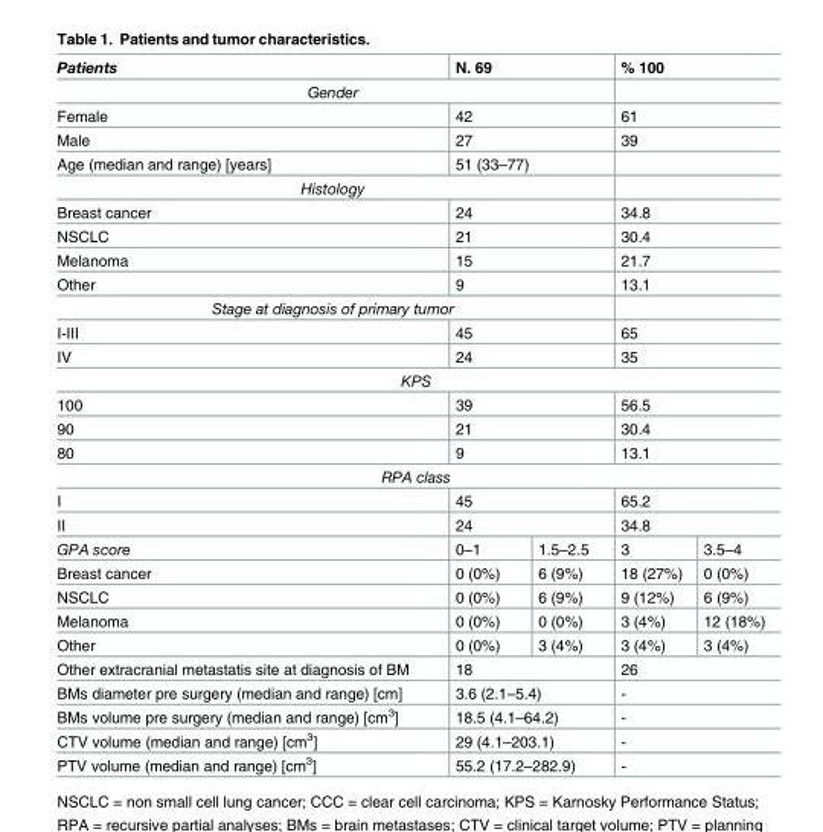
<table><thead><tr><td>Patients</td><td colspan="2">N. 69</td><td colspan="2">% 100</td></tr></thead><tbody><tr><td colspan="5">Gender</td></tr><tr><td>Female</td><td colspan="2">42</td><td colspan="2">61</td></tr><tr><td>Male</td><td colspan="2">27</td><td colspan="2">39</td></tr><tr><td>Age (median and range) [years]</td><td colspan="2">51 (33–77)</td><td colspan="2"></td></tr><tr><td colspan="5">Histology</td></tr><tr><td>Breast cancer</td><td colspan="2">24</td><td colspan="2">34.8</td></tr><tr><td>NSCLC</td><td colspan="2">21</td><td colspan="2">30.4</td></tr><tr><td>Melanoma</td><td colspan="2">15</td><td colspan="2">21.7</td></tr><tr><td>Other</td><td colspan="2">9</td><td colspan="2">13.1</td></tr><tr><td colspan="5">Stage at diagnosis of primary tumor</td></tr><tr><td>I-III</td><td colspan="2">45</td><td colspan="2">65</td></tr><tr><td>IV</td><td colspan="2">24</td><td colspan="2">35</td></tr><tr><td colspan="5">KPS</td></tr><tr><td>100</td><td colspan="2">39</td><td colspan="2">56.5</td></tr><tr><td>90</td><td colspan="2">21</td><td colspan="2">30.4</td></tr><tr><td>80</td><td colspan="2">9</td><td colspan="2">13.1</td></tr><tr><td colspan="5">RPA class</td></tr><tr><td>I</td><td colspan="2">45</td><td colspan="2">65.2</td></tr><tr><td>II</td><td colspan="2">24</td><td colspan="2">34.8</td></tr><tr><td>GPA score</td><td>0–1</td><td>1.5–2.5</td><td>3</td><td>3.5–4</td></tr><tr><td>Breast cancer</td><td>0 (0%)</td><td>6 (9%)</td><td>18 (27%)</td><td>0 (0%)</td></tr><tr><td>NSCLC</td><td>0 (0%)</td><td>6 (9%)</td><td>9 (12%)</td><td>6 (9%)</td></tr><tr><td>Melanoma</td><td>0 (0%)</td><td>0 (0%)</td><td>3 (4%)</td><td>12 (18%)</td></tr><tr><td>Other</td><td>0 (0%)</td><td>3 (4%)</td><td>3 (4%)</td><td>3 (4%)</td></tr><tr><td>Other extracranial metastatis site at diagnosis of BM</td><td colspan="2">18</td><td colspan="2">26</td></tr><tr><td>BMs diameter pre surgery (median and range) [cm]</td><td colspan="2">3.6 (2.1–5.4)</td><td colspan="2">-</td></tr><tr><td>BMs volume pre surgery (median and range) [cm<sup>3</sup>]</td><td colspan="2">18.5 (4.1–64.2)</td><td colspan="2">-</td></tr><tr><td>CTV volume (median and range) [cm<sup>3</sup>]</td><td colspan="2">29 (4.1–203.1)</td><td colspan="2">-</td></tr><tr><td>PTV volume (median and range) [cm<sup>3</sup>]</td><td colspan="2">55.2 (17.2–282.9)</td><td colspan="2">-</td></tr></tbody></table>